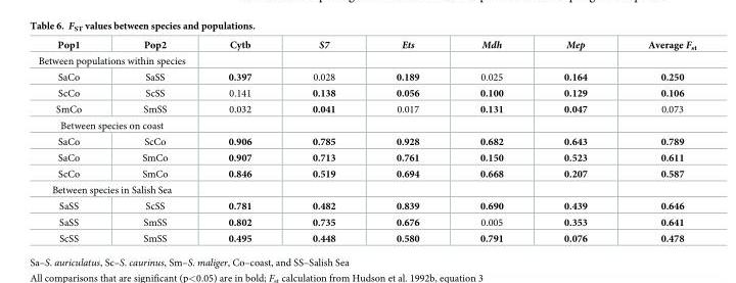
<table><thead><tr><td>Pop1</td><td>Pop2</td><td>Cytb</td><td>S7</td><td>Ets</td><td>Mdh</td><td>Mep</td><td>Average F<sub>st</sub></td></tr></thead><tbody><tr><td colspan="8">Between populations within species</td></tr><tr><td>SaCo</td><td>SaSS</td><td>0.397</td><td>0.028</td><td>0.189</td><td>0.025</td><td>0.164</td><td>0.250</td></tr><tr><td>ScCo</td><td>ScSS</td><td>0.141</td><td>0.138</td><td>0.056</td><td>0.100</td><td>0.129</td><td>0.106</td></tr><tr><td>SmCo</td><td>SmSS</td><td>0.032</td><td>0.041</td><td>0.017</td><td>0.131</td><td>0.047</td><td>0.073</td></tr><tr><td colspan="8">Between species on coast</td></tr><tr><td>SaCo</td><td>ScCo</td><td>0.906</td><td>0.785</td><td>0.928</td><td>0.682</td><td>0.643</td><td>0.789</td></tr><tr><td>SaCo</td><td>SmCo</td><td>0.907</td><td>0.713</td><td>0.761</td><td>0.150</td><td>0.523</td><td>0.611</td></tr><tr><td>ScCo</td><td>SmCo</td><td>0.846</td><td>0.519</td><td>0.694</td><td>0.668</td><td>0.207</td><td>0.587</td></tr><tr><td colspan="8">Between species in Salish Sea</td></tr><tr><td>SaSS</td><td>ScSS</td><td>0.781</td><td>0.482</td><td>0.839</td><td>0.690</td><td>0.439</td><td>0.646</td></tr><tr><td>SaSS</td><td>SmSS</td><td>0.802</td><td>0.735</td><td>0.676</td><td>0.005</td><td>0.353</td><td>0.641</td></tr><tr><td>ScSS</td><td>SmSS</td><td>0.495</td><td>0.448</td><td>0.580</td><td>0.791</td><td>0.076</td><td>0.478</td></tr></tbody></table>